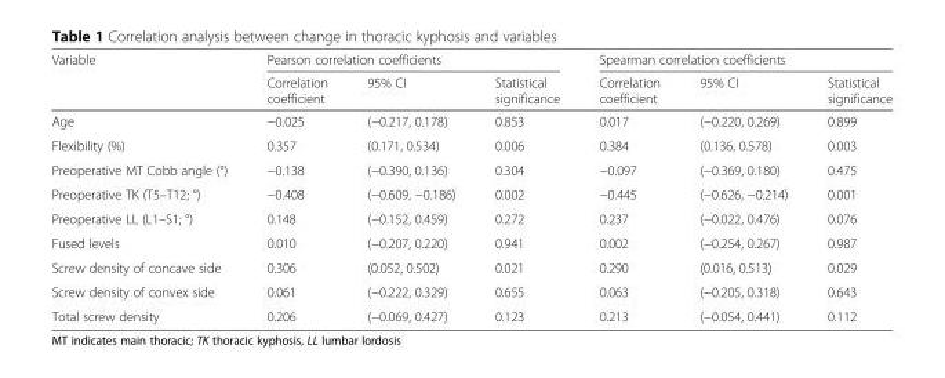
<table><thead><tr><td rowspan="2">Variable</td><td colspan="3">Pearson correlation coefficients</td><td colspan="3">Spearman correlation coefficients</td></tr><tr><td>Correlation coefficient</td><td>95% CI</td><td>Statistical significance</td><td>Correlation coefficient</td><td>95% CI</td><td>Statistical significance</td></tr></thead><tbody><tr><td>Age</td><td>−0.025</td><td>(−0.217, 0.178)</td><td>0.853</td><td>0.017</td><td>(−0.220, 0.269)</td><td>0.899</td></tr><tr><td>Flexibility (%)</td><td>0.357</td><td>(0.171, 0.534)</td><td>0.006</td><td>0.384</td><td>(0.136, 0.578)</td><td>0.003</td></tr><tr><td>Preoperative MT Cobb angle (°)</td><td>−0.138</td><td>(−0.390, 0.136)</td><td>0.304</td><td>−0.097</td><td>(−0.369, 0.180)</td><td>0.475</td></tr><tr><td>Preoperative TK (T5–T12; °)</td><td>−0.408</td><td>(−0.609, −0.186)</td><td>0.002</td><td>−0.445</td><td>(−0.626, −0.214)</td><td>0.001</td></tr><tr><td>Preoperative LL (L1–S1; °)</td><td>0.148</td><td>(−0.152, 0.459)</td><td>0.272</td><td>0.237</td><td>(−0.022, 0.476)</td><td>0.076</td></tr><tr><td>Fused levels</td><td>0.010</td><td>(−0.207, 0.220)</td><td>0.941</td><td>0.002</td><td>(−0.254, 0.267)</td><td>0.987</td></tr><tr><td>Screw density of concave side</td><td>0.306</td><td>(0.052, 0.502)</td><td>0.021</td><td>0.290</td><td>(0.016, 0.513)</td><td>0.029</td></tr><tr><td>Screw density of convex side</td><td>0.061</td><td>(−0.222, 0.329)</td><td>0.655</td><td>0.063</td><td>(−0.205, 0.318)</td><td>0.643</td></tr><tr><td>Total screw density</td><td>0.206</td><td>(−0.069, 0.427)</td><td>0.123</td><td>0.213</td><td>(−0.054, 0.441)</td><td>0.112</td></tr></tbody></table>